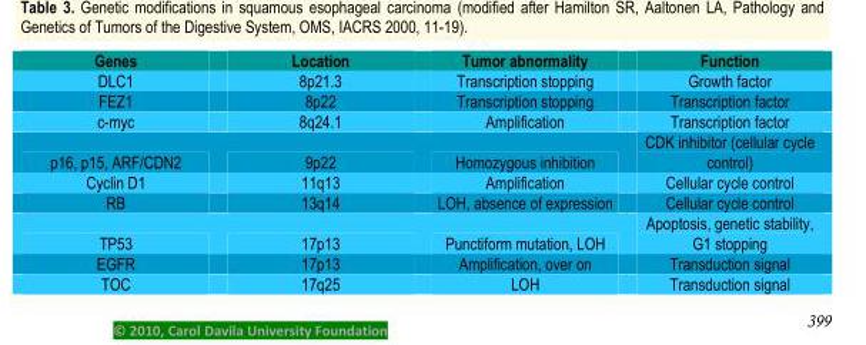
<table><thead><tr><td>Genes</td><td>Location</td><td>Tumor abnormality</td><td>Function</td></tr></thead><tbody><tr><td>DLC1</td><td>8p21.3</td><td>Transcription stopping</td><td>Growth factor</td></tr><tr><td>FEZ1</td><td>8p22</td><td>Transcription stopping</td><td>Transcription factor</td></tr><tr><td>c-myc</td><td>8q24.1</td><td>Amplification</td><td>Transcription factor</td></tr><tr><td>p16, p15, ARF/CDN2</td><td>9p22</td><td>Homozygous inhibition</td><td>CDK inhibitor (cellular cycle control)</td></tr><tr><td>Cyclin D1</td><td>11q13</td><td>Amplification</td><td>Cellular cycle control</td></tr><tr><td>RB</td><td>13q14</td><td>LOH, absence of expression</td><td>Cellular cycle control</td></tr><tr><td>TP53</td><td>17p13</td><td>Punctiform mutation, LOH</td><td>Apoptosis, genetic stability, G1 stopping</td></tr><tr><td>EGFR</td><td>17p13</td><td>Amplification, over on</td><td>Transduction signal</td></tr><tr><td>TOC</td><td>17q25</td><td>LOH</td><td>Transduction signal</td></tr></tbody></table>